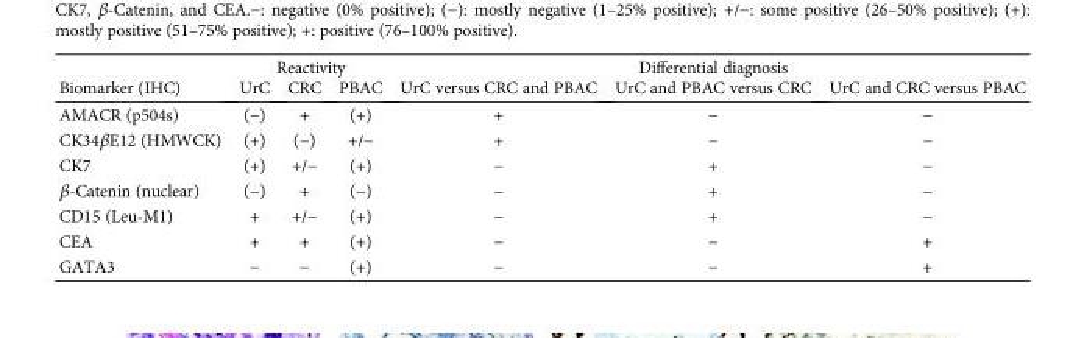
<table><thead><tr><td rowspan="2">Biomarker (IHC)</td><td colspan="3">Reactivity</td><td colspan="3">Differential diagnosis</td></tr><tr><td>UrC</td><td>CRC</td><td>PBAC</td><td>UrC versus CRC and PBAC</td><td>UrC and PBAC versus CRC</td><td>UrC and CRC versus PBAC</td></tr></thead><tbody><tr><td>AMACR (p504s)</td><td>(−)</td><td>+</td><td>(+)</td><td>+</td><td>−</td><td>−</td></tr><tr><td>CK34βE12 (HMWCK)</td><td>(+)</td><td>(−)</td><td>+/−</td><td>+</td><td>−</td><td>−</td></tr><tr><td>CK7</td><td>(+)</td><td>+/−</td><td>(+)</td><td>−</td><td>+</td><td>−</td></tr><tr><td>β-Catenin (nuclear)</td><td>(−)</td><td>+</td><td>(−)</td><td>−</td><td>+</td><td>−</td></tr><tr><td>CD15 (Leu-M1)</td><td>+</td><td>+/−</td><td>(+)</td><td>−</td><td>+</td><td>−</td></tr><tr><td>CEA</td><td>+</td><td>+</td><td>(+)</td><td>−</td><td>−</td><td>+</td></tr><tr><td>GATA3</td><td>−</td><td>−</td><td>(+)</td><td>−</td><td>−</td><td>+</td></tr></tbody></table>